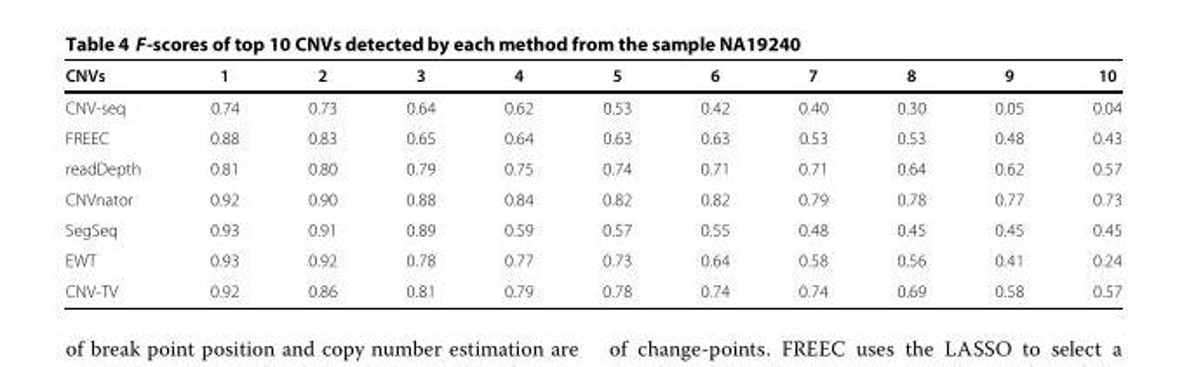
<table><thead><tr><td>CNVs</td><td>1</td><td>2</td><td>3</td><td>4</td><td>5</td><td>6</td><td>7</td><td>8</td><td>9</td><td>10</td></tr></thead><tbody><tr><td>CNV-seq</td><td>0.74</td><td>0.73</td><td>0.64</td><td>0.62</td><td>0.53</td><td>0.42</td><td>0.40</td><td>0.30</td><td>0.05</td><td>0.04</td></tr><tr><td>FREEC</td><td>0.88</td><td>0.83</td><td>0.65</td><td>0.64</td><td>0.63</td><td>0.63</td><td>0.53</td><td>0.53</td><td>0.48</td><td>0.43</td></tr><tr><td>readDepth</td><td>0.81</td><td>0.80</td><td>0.79</td><td>0.75</td><td>0.74</td><td>0.71</td><td>0.71</td><td>0.64</td><td>0.62</td><td>0.57</td></tr><tr><td>CNVnator</td><td>0.92</td><td>0.90</td><td>0.88</td><td>0.84</td><td>0.82</td><td>0.82</td><td>0.79</td><td>0.78</td><td>0.77</td><td>0.73</td></tr><tr><td>SegSeq</td><td>0.93</td><td>0.91</td><td>0.89</td><td>0.59</td><td>0.57</td><td>0.55</td><td>0.48</td><td>0.45</td><td>0.45</td><td>0.45</td></tr><tr><td>EWT</td><td>0.93</td><td>0.92</td><td>0.78</td><td>0.77</td><td>0.73</td><td>0.64</td><td>0.58</td><td>0.56</td><td>0.41</td><td>0.24</td></tr><tr><td>CNV-TV</td><td>0.92</td><td>0.86</td><td>0.81</td><td>0.79</td><td>0.78</td><td>0.74</td><td>0.74</td><td>0.69</td><td>0.58</td><td>0.57</td></tr></tbody></table>